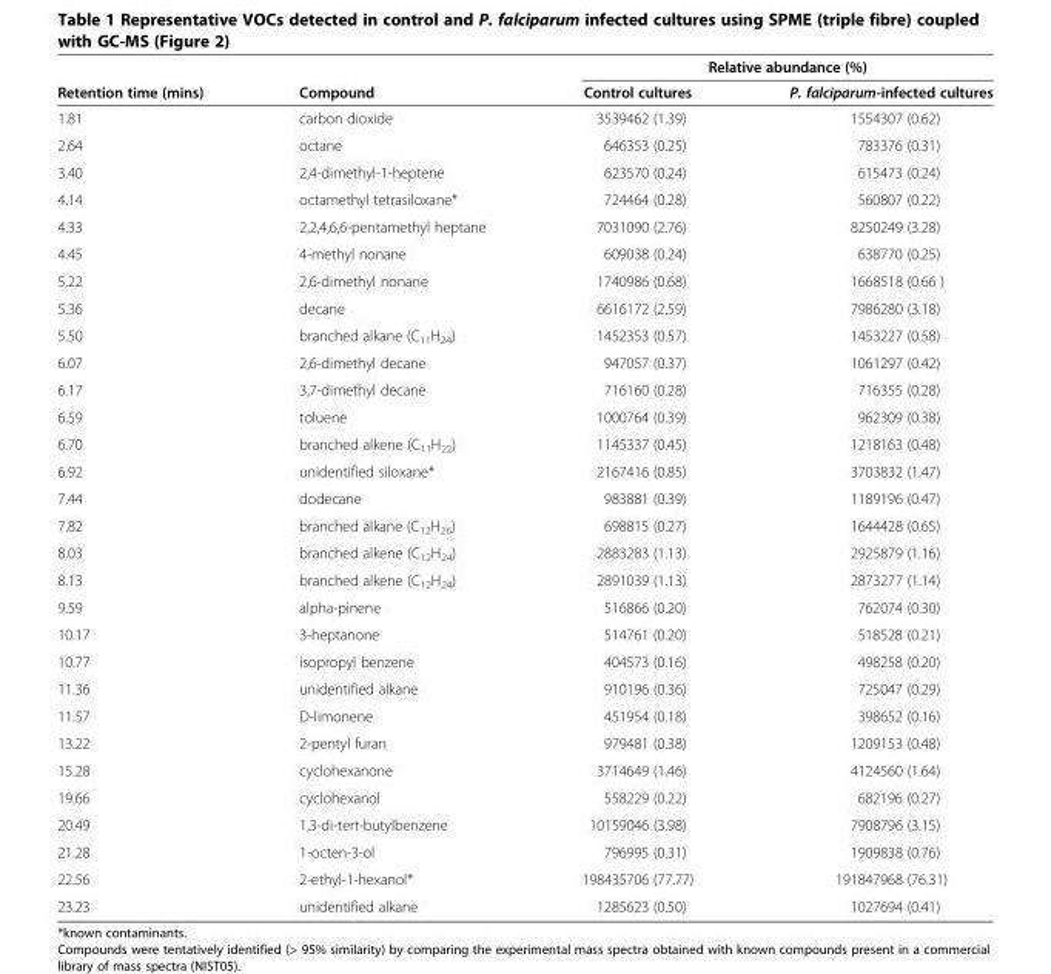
<table><thead><tr><td rowspan="2">Retention time (mins)</td><td rowspan="2">Compound</td><td colspan="2">Relative abundance (%)</td></tr><tr><td>Control cultures</td><td>P. falciparum-infected cultures</td></tr></thead><tbody><tr><td>1.81</td><td>carbon dioxide</td><td>3539462 (1.39)</td><td>1554307 (0.62)</td></tr><tr><td>2.64</td><td>octane</td><td>646353 (0.25)</td><td>783376 (0.31)</td></tr><tr><td>3.40</td><td>2,4-dimethyl-1-heptene</td><td>623570 (0.24)</td><td>615473 (0.24)</td></tr><tr><td>4.14</td><td>octamethyl tetrasiloxane*</td><td>724464 (0.28)</td><td>560807 (0.22)</td></tr><tr><td>4.33</td><td>2,2,4,6,6-pentamethyl heptane</td><td>7031090 (2.76)</td><td>8250249 (3.28)</td></tr><tr><td>4.45</td><td>4-methyl nonane</td><td>609038 (0.24)</td><td>638770 (0.25)</td></tr><tr><td>5.22</td><td>2,6-dimethyl nonane</td><td>1740986 (0.68)</td><td>1668518 (0.66 )</td></tr><tr><td>5.36</td><td>decane</td><td>6616172 (2.59)</td><td>7986280 (3.18)</td></tr><tr><td>5.50</td><td>branched alkane (C<sub>11</sub>H<sub>24</sub>)</td><td>1452353 (0.57)</td><td>1453227 (0.58)</td></tr><tr><td>6.07</td><td>2,6-dimethyl decane</td><td>947057 (0.37)</td><td>1061297 (0.42)</td></tr><tr><td>6.17</td><td>3,7-dimethyl decane</td><td>716160 (0.28)</td><td>716355 (0.28)</td></tr><tr><td>6.59</td><td>toluene</td><td>1000764 (0.39)</td><td>962309 (0.38)</td></tr><tr><td>6.70</td><td>branched alkene (C<sub>11</sub>H<sub>22</sub>)</td><td>1145337 (0.45)</td><td>1218163 (0.48)</td></tr><tr><td>6.92</td><td>unidentified siloxane*</td><td>2167416 (0.85)</td><td>3703832 (1.47)</td></tr><tr><td>7.44</td><td>dodecane</td><td>983881 (0.39)</td><td>1189196 (0.47)</td></tr><tr><td>7.82</td><td>branched alkane (C<sub>12</sub>H<sub>26</sub>)</td><td>698815 (0.27)</td><td>1644428 (0.65)</td></tr><tr><td>8.03</td><td>branched alkene (C<sub>12</sub>H<sub>24</sub>)</td><td>2883283 (1.13)</td><td>2925879 (1.16)</td></tr><tr><td>8.13</td><td>branched alkene (C<sub>12</sub>H<sub>24</sub>)</td><td>2891039 (1.13)</td><td>2873277 (1.14)</td></tr><tr><td>9.59</td><td>alpha-pinene</td><td>516866 (0.20)</td><td>762074 (0.30)</td></tr><tr><td>10.17</td><td>3-heptanone</td><td>514761 (0.20)</td><td>518528 (0.21)</td></tr><tr><td>10.77</td><td>isopropyl benzene</td><td>404573 (0.16)</td><td>498258 (0.20)</td></tr><tr><td>11.36</td><td>unidentified alkane</td><td>910196 (0.36)</td><td>725047 (0.29)</td></tr><tr><td>11.57</td><td>D-limonene</td><td>451954 (0.18)</td><td>398652 (0.16)</td></tr><tr><td>13.22</td><td>2-pentyl furan</td><td>979481 (0.38)</td><td>1209153 (0.48)</td></tr><tr><td>15.28</td><td>cyclohexanone</td><td>3714649 (1.46)</td><td>4124560 (1.64)</td></tr><tr><td>19.66</td><td>cyclohexanol</td><td>558229 (0.22)</td><td>682196 (0.27)</td></tr><tr><td>20.49</td><td>1,3-di-tert-butylbenzene</td><td>10159046 (3.98)</td><td>7908796 (3.15)</td></tr><tr><td>21.28</td><td>1-octen-3-ol</td><td>796995 (0.31)</td><td>1909838 (0.76)</td></tr><tr><td>22.56</td><td>2-ethyl-1-hexanol*</td><td>198435706 (77.77)</td><td>191847968 (76.31)</td></tr><tr><td>23.23</td><td>unidentified alkane</td><td>1285623 (0.50)</td><td>1027694 (0.41)</td></tr></tbody></table>